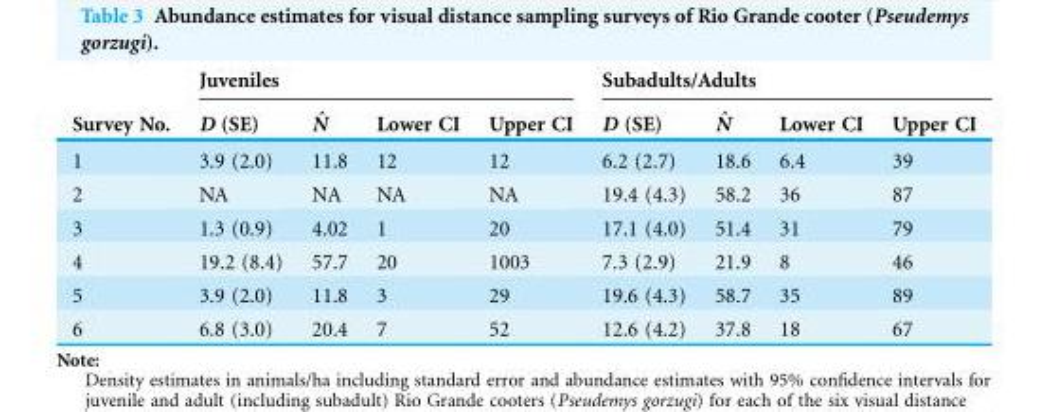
<table><thead><tr><td rowspan="2">Survey No.</td><td colspan="4">Juveniles</td><td colspan="4">Subadults/Adults</td></tr><tr><td>D (SE)</td><td>Nˆ</td><td>Lower CI</td><td>Upper CI</td><td>D (SE)</td><td>Nˆ</td><td>Lower CI</td><td>Upper CI</td></tr></thead><tbody><tr><td>1</td><td>3.9 (2.0)</td><td>11.8</td><td>12</td><td>12</td><td>6.2 (2.7)</td><td>18.6</td><td>6.4</td><td>39</td></tr><tr><td>2</td><td>NA</td><td>NA</td><td>NA</td><td>NA</td><td>19.4 (4.3)</td><td>58.2</td><td>36</td><td>87</td></tr><tr><td>3</td><td>1.3 (0.9)</td><td>4.02</td><td>1</td><td>20</td><td>17.1 (4.0)</td><td>51.4</td><td>31</td><td>79</td></tr><tr><td>4</td><td>19.2 (8.4)</td><td>57.7</td><td>20</td><td>1003</td><td>7.3 (2.9)</td><td>21.9</td><td>8</td><td>46</td></tr><tr><td>5</td><td>3.9 (2.0)</td><td>11.8</td><td>3</td><td>29</td><td>19.6 (4.3)</td><td>58.7</td><td>35</td><td>89</td></tr><tr><td>6</td><td>6.8 (3.0)</td><td>20.4</td><td>7</td><td>52</td><td>12.6 (4.2)</td><td>37.8</td><td>18</td><td>67</td></tr></tbody></table>